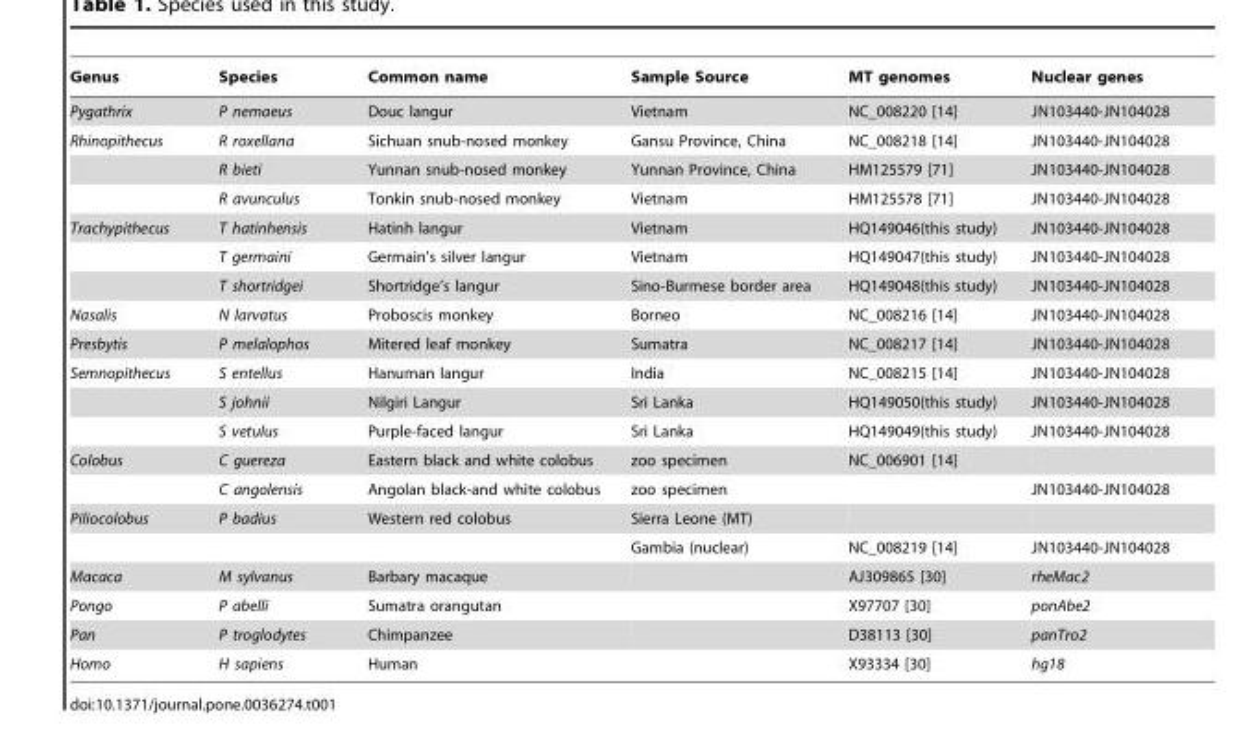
<table><thead><tr><td>Genus</td><td>Species</td><td>Common name</td><td>Sample Source</td><td>MT genomes</td><td>Nuclear genes</td></tr></thead><tbody><tr><td>Pygathrix</td><td>P nemaeus</td><td>Douc langur</td><td>Vietnam</td><td>NC_008220 [14]</td><td>JN103440-JN104028</td></tr><tr><td rowspan="3">Rhinopithecus</td><td>R roxellana</td><td>Sichuan snub-nosed monkey</td><td>Gansu Province, China</td><td>NC_008218 [14]</td><td>JN103440-JN104028</td></tr><tr><td>R bieti</td><td>Yunnan snub-nosed monkey</td><td>Yunnan Province, China</td><td>HM125579 [71]</td><td>JN103440-JN104028</td></tr><tr><td>R avunculus</td><td>Tonkin snub-nosed monkey</td><td>Vietnam</td><td>HM125578 [71]</td><td>JN103440-JN104028</td></tr><tr><td rowspan="3">Trachypithecus</td><td>T hatinhensis</td><td>Hatinh langur</td><td>Vietnam</td><td>HQ149046(this study)</td><td>JN103440-JN104028</td></tr><tr><td>T germaini</td><td>Germain’s silver langur</td><td>Vietnam</td><td>HQ149047(this study)</td><td>JN103440-JN104028</td></tr><tr><td>T shortridgei</td><td>Shortridge’s langur</td><td>Sino-Burmese border area</td><td>HQ149048(this study)</td><td>JN103440-JN104028</td></tr><tr><td>Nasalis</td><td>N larvatus</td><td>Proboscis monkey</td><td>Borneo</td><td>NC_008216 [14]</td><td>JN103440-JN104028</td></tr><tr><td>Presbytis</td><td>P melalophos</td><td>Mitered leaf monkey</td><td>Sumatra</td><td>NC_008217 [14]</td><td>JN103440-JN104028</td></tr><tr><td rowspan="3">Semnopithecus</td><td>S entellus</td><td>Hanuman langur</td><td>India</td><td>NC_008215 [14]</td><td>JN103440-JN104028</td></tr><tr><td>S johnii</td><td>Nilgiri Langur</td><td>Sri Lanka</td><td>HQ149050(this study)</td><td>JN103440-JN104028</td></tr><tr><td>S vetulus</td><td>Purple-faced langur</td><td>Sri Lanka</td><td>HQ149049(this study)</td><td>JN103440-JN104028</td></tr><tr><td rowspan="2">Colobus</td><td>C guereza</td><td>Eastern black and white colobus</td><td>zoo specimen</td><td>NC_006901 [14]</td><td></td></tr><tr><td>C angolensis</td><td>Angolan black-and white colobus</td><td>zoo specimen</td><td></td><td>JN103440-JN104028</td></tr><tr><td rowspan="2">Piliocolobus</td><td>P badius</td><td>Western red colobus</td><td>Sierra Leone (MT)</td><td></td><td></td></tr><tr><td></td><td></td><td>Gambia (nuclear)</td><td>NC_008219 [14]</td><td>JN103440-JN104028</td></tr><tr><td>Macaca</td><td>M sylvanus</td><td>Barbary macaque</td><td></td><td>AJ309865 [30]</td><td>rheMac2</td></tr><tr><td>Pongo</td><td>P abelli</td><td>Sumatra orangutan</td><td></td><td>X97707 [30]</td><td>ponAbe2</td></tr><tr><td>Pan</td><td>P troglodytes</td><td>Chimpanzee</td><td></td><td>D38113 [30]</td><td>panTro2</td></tr><tr><td>Homo</td><td>H sapiens</td><td>Human</td><td></td><td>X93334 [30]</td><td>hg18</td></tr></tbody></table>